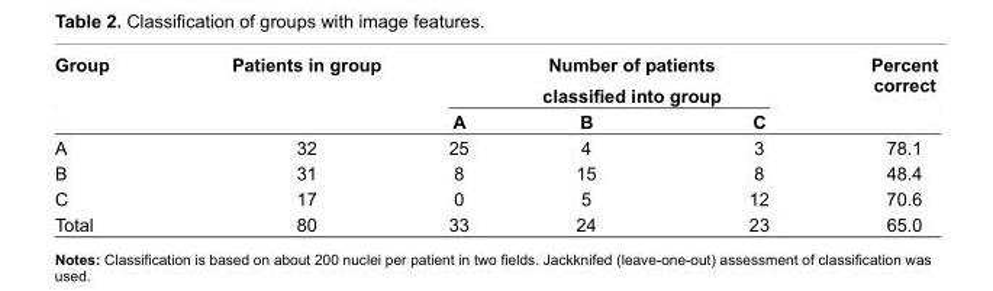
<table><thead><tr><td rowspan="2">Group</td><td rowspan="2">Patients in group</td><td colspan="3">Number of patients classifi ed into group</td><td rowspan="2">Percent correct</td></tr><tr><td>A</td><td>B</td><td>C</td></tr></thead><tbody><tr><td>A</td><td>32</td><td>25</td><td>4</td><td>3</td><td>78.1</td></tr><tr><td>B</td><td>31</td><td>8</td><td>15</td><td>8</td><td>48.4</td></tr><tr><td>C</td><td>17</td><td>0</td><td>5</td><td>12</td><td>70.6</td></tr><tr><td>Total</td><td>80</td><td>33</td><td>24</td><td>23</td><td>65.0</td></tr></tbody></table>